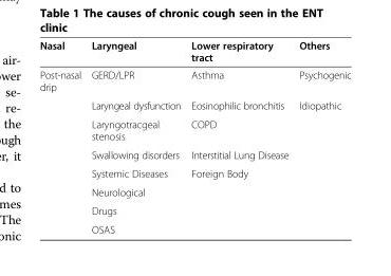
<table><thead><tr><td>Nasal</td><td>Laryngeal</td><td>Lower respiratory tract</td><td>Others</td></tr></thead><tbody><tr><td rowspan="8">Post-nasal drip</td><td>GERD/LPR</td><td>Asthma</td><td>Psychogenic</td></tr><tr><td>Laryngeal dysfunction</td><td>Eosinophilic bronchitis</td><td>Idiopathic</td></tr><tr><td>Laryngotracgeal stenosis</td><td>COPD</td><td></td></tr><tr><td>Swallowing disorders</td><td>Interstitial Lung Disease</td><td></td></tr><tr><td>Systemic Diseases</td><td>Foreign Body</td><td></td></tr><tr><td>Neurological</td><td></td><td></td></tr><tr><td>Drugs</td><td></td><td></td></tr><tr><td>OSAS</td><td></td><td></td></tr></tbody></table>